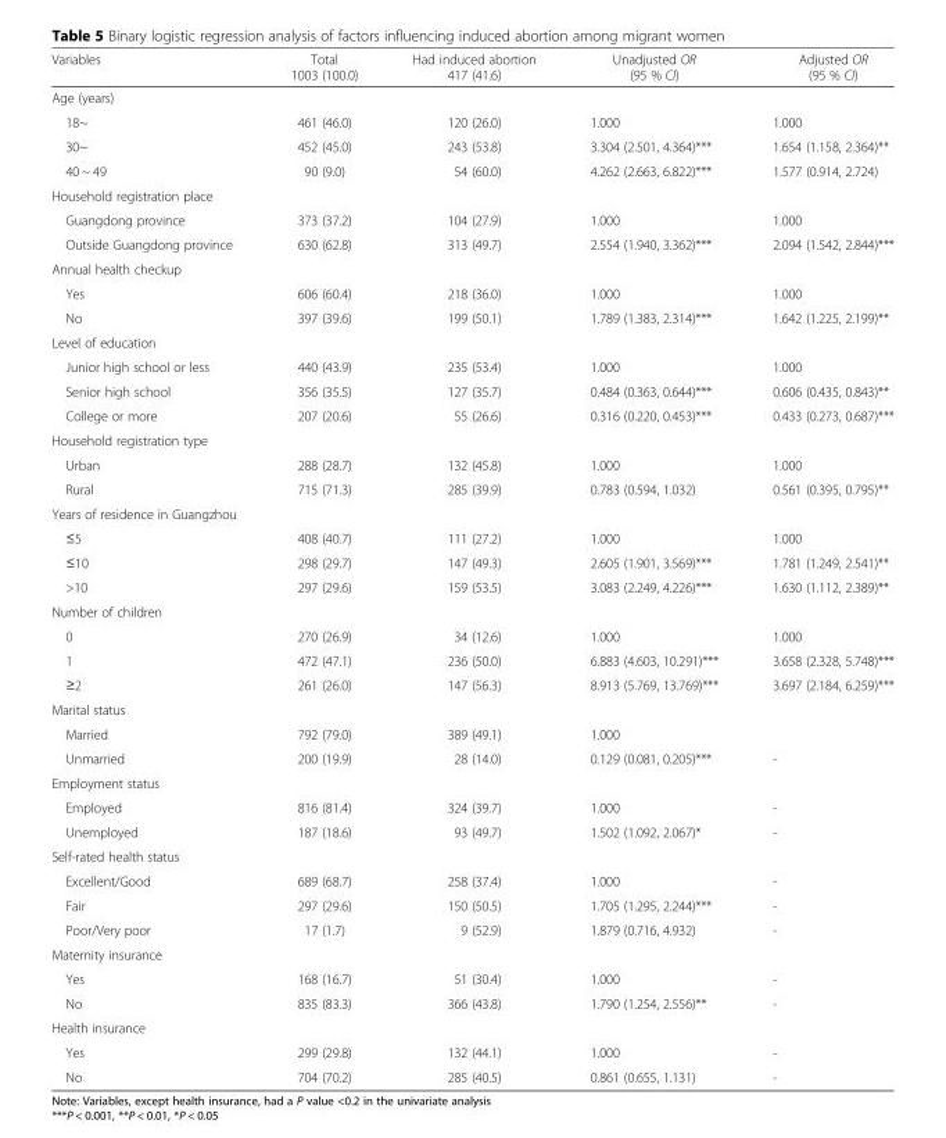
<table><thead><tr><td>Variables</td><td>Total 1003 (100.0)</td><td>Had induced abortion 417 (41.6)</td><td>Unadjusted OR (95 % CI)</td><td>Adjusted OR (95 % CI)</td></tr></thead><tbody><tr><td colspan="5">Age (years)</td></tr><tr><td>18~</td><td>461 (46.0)</td><td>120 (26.0)</td><td>1.000</td><td>1.000</td></tr><tr><td>30~</td><td>452 (45.0)</td><td>243 (53.8)</td><td>3.304 (2.501, 4.364)***</td><td>1.654 (1.158, 2.364)**</td></tr><tr><td>40 ~ 49</td><td>90 (9.0)</td><td>54 (60.0)</td><td>4.262 (2.663, 6.822)***</td><td>1.577 (0.914, 2.724)</td></tr><tr><td colspan="5">Household registration place</td></tr><tr><td>Guangdong province</td><td>373 (37.2)</td><td>104 (27.9)</td><td>1.000</td><td>1.000</td></tr><tr><td>Outside Guangdong province</td><td>630 (62.8)</td><td>313 (49.7)</td><td>2.554 (1.940, 3.362)***</td><td>2.094 (1.542, 2.844)***</td></tr><tr><td colspan="5">Annual health checkup</td></tr><tr><td>Yes</td><td>606 (60.4)</td><td>218 (36.0)</td><td>1.000</td><td>1.000</td></tr><tr><td>No</td><td>397 (39.6)</td><td>199 (50.1)</td><td>1.789 (1.383, 2.314)***</td><td>1.642 (1.225, 2.199)**</td></tr><tr><td colspan="5">Level of education</td></tr><tr><td>Junior high school or less</td><td>440 (43.9)</td><td>235 (53.4)</td><td>1.000</td><td>1.000</td></tr><tr><td>Senior high school</td><td>356 (35.5)</td><td>127 (35.7)</td><td>0.484 (0.363, 0.644)***</td><td>0.606 (0.435, 0.843)**</td></tr><tr><td>College or more</td><td>207 (20.6)</td><td>55 (26.6)</td><td>0.316 (0.220, 0.453)***</td><td>0.433 (0.273, 0.687)***</td></tr><tr><td colspan="5">Household registration type</td></tr><tr><td>Urban</td><td>288 (28.7)</td><td>132 (45.8)</td><td>1.000</td><td>1.000</td></tr><tr><td>Rural</td><td>715 (71.3)</td><td>285 (39.9)</td><td>0.783 (0.594, 1.032)</td><td>0.561 (0.395, 0.795)**</td></tr><tr><td colspan="5">Years of residence in Guangzhou</td></tr><tr><td>≤5</td><td>408 (40.7)</td><td>111 (27.2)</td><td>1.000</td><td>1.000</td></tr><tr><td>≤10</td><td>298 (29.7)</td><td>147 (49.3)</td><td>2.605 (1.901, 3.569)***</td><td>1.781 (1.249, 2.541)**</td></tr><tr><td>&gt;10</td><td>297 (29.6)</td><td>159 (53.5)</td><td>3.083 (2.249, 4.226)***</td><td>1.630 (1.112, 2.389)**</td></tr><tr><td colspan="5">Number of children</td></tr><tr><td>0</td><td>270 (26.9)</td><td>34 (12.6)</td><td>1.000</td><td>1.000</td></tr><tr><td>1</td><td>472 (47.1)</td><td>236 (50.0)</td><td>6.883 (4.603, 10.291)***</td><td>3.658 (2.328, 5.748)***</td></tr><tr><td>≥2</td><td>261 (26.0)</td><td>147 (56.3)</td><td>8.913 (5.769, 13.769)***</td><td>3.697 (2.184, 6.259)***</td></tr><tr><td colspan="5">Marital status</td></tr><tr><td>Married</td><td>792 (79.0)</td><td>389 (49.1)</td><td>1.000</td><td></td></tr><tr><td>Unmarried</td><td>200 (19.9)</td><td>28 (14.0)</td><td>0.129 (0.081, 0.205)***</td><td>-</td></tr><tr><td colspan="5">Employment status</td></tr><tr><td>Employed</td><td>816 (81.4)</td><td>324 (39.7)</td><td>1.000</td><td>-</td></tr><tr><td>Unemployed</td><td>187 (18.6)</td><td>93 (49.7)</td><td>1.502 (1.092, 2.067)*</td><td>-</td></tr><tr><td colspan="5">Self-rated health status</td></tr><tr><td>Excellent/Good</td><td>689 (68.7)</td><td>258 (37.4)</td><td>1.000</td><td>-</td></tr><tr><td>Fair</td><td>297 (29.6)</td><td>150 (50.5)</td><td>1.705 (1.295, 2.244)***</td><td>-</td></tr><tr><td>Poor/Very poor</td><td>17 (1.7)</td><td>9 (52.9)</td><td>1.879 (0.716, 4.932)</td><td>-</td></tr><tr><td colspan="5">Maternity insurance</td></tr><tr><td>Yes</td><td>168 (16.7)</td><td>51 (30.4)</td><td>1.000</td><td>-</td></tr><tr><td>No</td><td>835 (83.3)</td><td>366 (43.8)</td><td>1.790 (1.254, 2.556)**</td><td>-</td></tr><tr><td colspan="5">Health insurance</td></tr><tr><td>Yes</td><td>299 (29.8)</td><td>132 (44.1)</td><td>1.000</td><td>-</td></tr><tr><td>No</td><td>704 (70.2)</td><td>285 (40.5)</td><td>0.861 (0.655, 1.131)</td><td>-</td></tr></tbody></table>